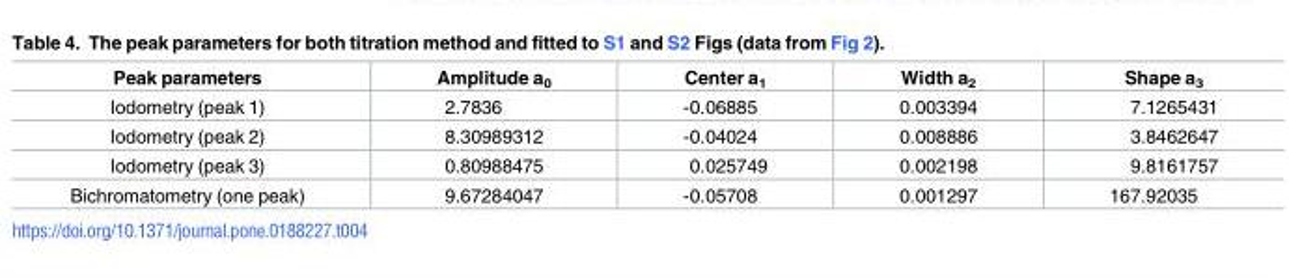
<table><thead><tr><td>Peak parameters</td><td>Amplitude a<sub>0</sub></td><td>Center a<sub>1</sub></td><td>Width a<sub>2</sub></td><td>Shape a<sub>3</sub></td></tr></thead><tbody><tr><td>Iodometry (peak 1)</td><td>2.7836</td><td>-0.06885</td><td>0.003394</td><td>7.1265431</td></tr><tr><td>Iodometry (peak 2)</td><td>8.30989312</td><td>-0.04024</td><td>0.008886</td><td>3.8462647</td></tr><tr><td>Iodometry (peak 3)</td><td>0.80988475</td><td>0.025749</td><td>0.002198</td><td>9.8161757</td></tr><tr><td>Bichromatometry (one peak)</td><td>9.67284047</td><td>-0.05708</td><td>0.001297</td><td>167.92035</td></tr></tbody></table>